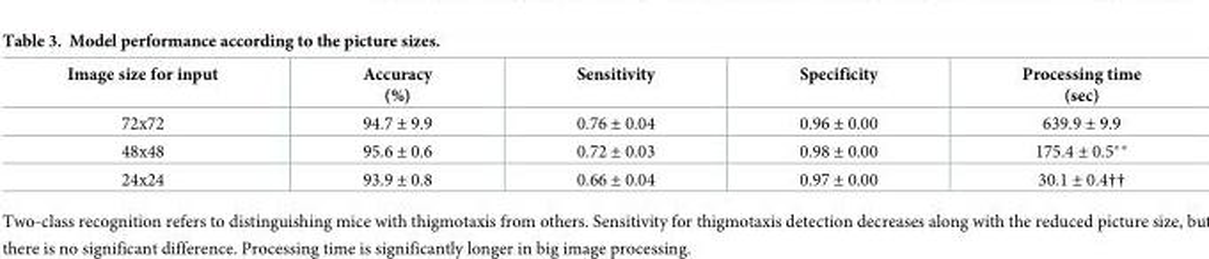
<table><thead><tr><td>Image size for input</td><td>Accuracy (%)</td><td>Sensitivity</td><td>Specificity</td><td>Processing time (sec)</td></tr></thead><tbody><tr><td>72x72</td><td>94.7 ± 9.9</td><td>0.76 ± 0.04</td><td>0.96 ± 0.00</td><td>639.9 ± 9.9</td></tr><tr><td>48x48</td><td>95.6 ± 0.6</td><td>0.72 ± 0.03</td><td>0.98 ± 0.00</td><td>175.4 ± 0.5**</td></tr><tr><td>24x24</td><td>93.9 ± 0.8</td><td>0.66 ± 0.04</td><td>0.97 ± 0.00</td><td>30.1 ± 0.4††</td></tr></tbody></table>